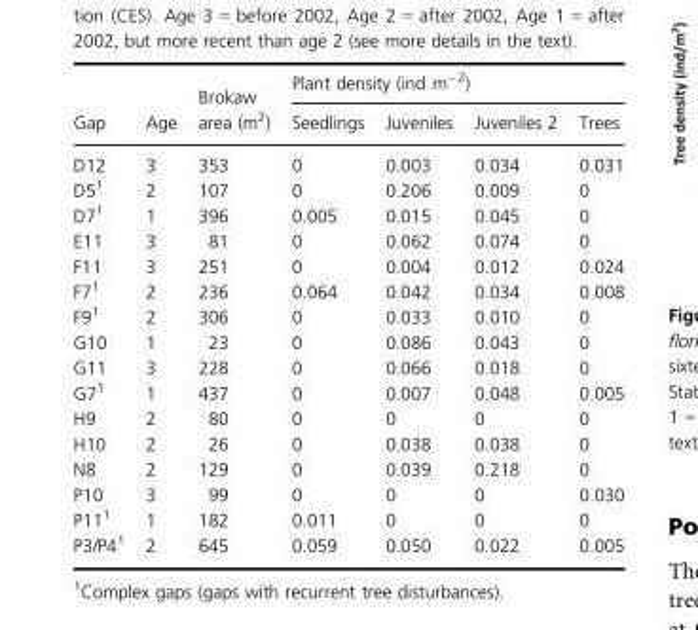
<table><thead><tr><td rowspan="2">Gap</td><td rowspan="2">Age</td><td rowspan="2">Brokaw area (m<sup>2</sup>)</td><td colspan="4">Plant density (ind m<sup>−2</sup>)</td></tr><tr><td>Seedlings</td><td>Juveniles</td><td>Juveniles 2</td><td>Trees</td></tr></thead><tbody><tr><td>D12</td><td>3</td><td>353</td><td>0</td><td>0.003</td><td>0.034</td><td>0.031</td></tr><tr><td>D5<sup>1</sup></td><td>2</td><td>107</td><td>0</td><td>0.206</td><td>0.009</td><td>0</td></tr><tr><td>D7<sup>1</sup></td><td>1</td><td>396</td><td>0.005</td><td>0.015</td><td>0.045</td><td>0</td></tr><tr><td>E11</td><td>3</td><td>81</td><td>0</td><td>0.062</td><td>0.074</td><td>0</td></tr><tr><td>F11</td><td>3</td><td>251</td><td>0</td><td>0.004</td><td>0.012</td><td>0.024</td></tr><tr><td>F7<sup>1</sup></td><td>2</td><td>236</td><td>0.064</td><td>0.042</td><td>0.034</td><td>0.008</td></tr><tr><td>F9<sup>1</sup></td><td>2</td><td>306</td><td>0</td><td>0.033</td><td>0.010</td><td>0</td></tr><tr><td>G10</td><td>1</td><td>23</td><td>0</td><td>0.086</td><td>0.043</td><td>0</td></tr><tr><td>G11</td><td>3</td><td>228</td><td>0</td><td>0.066</td><td>0.018</td><td>0</td></tr><tr><td>G7<sup>1</sup></td><td>1</td><td>437</td><td>0</td><td>0.007</td><td>0.048</td><td>0.005</td></tr><tr><td>H9</td><td>2</td><td>80</td><td>0</td><td>0</td><td>0</td><td>0</td></tr><tr><td>H10</td><td>2</td><td>26</td><td>0</td><td>0.038</td><td>0.038</td><td>0</td></tr><tr><td>N8</td><td>2</td><td>129</td><td>0</td><td>0.039</td><td>0.218</td><td>0</td></tr><tr><td>P10</td><td>3</td><td>99</td><td>0</td><td>0</td><td>0</td><td>0.030</td></tr><tr><td>P11<sup>1</sup></td><td>1</td><td>182</td><td>0.011</td><td>0</td><td>0</td><td>0</td></tr><tr><td>P3/P4<sup>1</sup></td><td>2</td><td>645</td><td>0.059</td><td>0.050</td><td>0.022</td><td>0.005</td></tr></tbody></table>